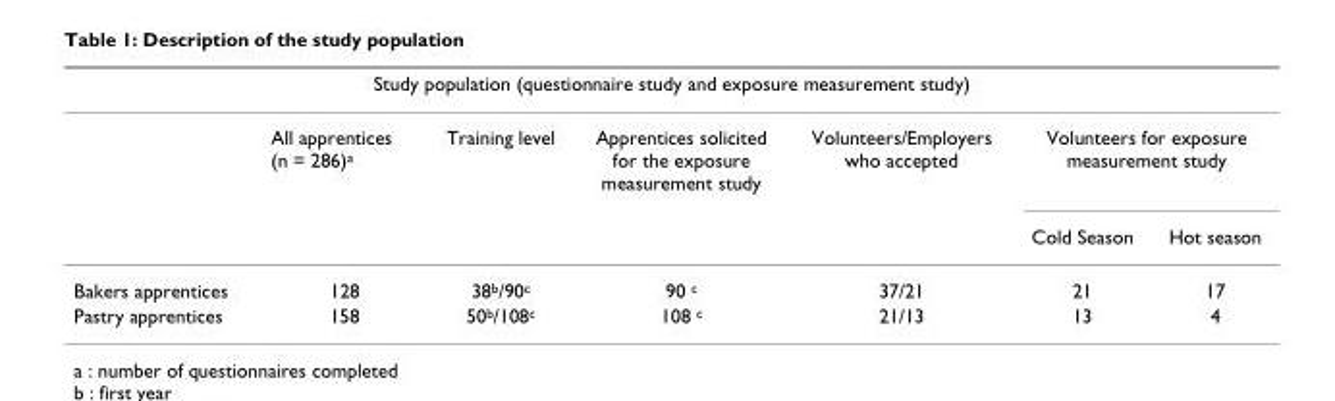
<table><thead><tr><td colspan="7">Study population (questionnaire study and exposure measurement study)</td></tr><tr><td rowspan="2"></td><td rowspan="2">All apprentices (n = 286)<sup>a</sup></td><td rowspan="2">Training level</td><td rowspan="2">Apprentices solicited for the exposure measurement study</td><td rowspan="2">Volunteers/Employers who accepted</td><td colspan="2">Volunteers for exposure measurement study</td></tr><tr><td>Cold Season</td><td>Hot season</td></tr></thead><tbody><tr><td>Bakers apprentices</td><td>128</td><td>38<sup>b</sup>/90<sup>c</sup></td><td>90 <sup>c</sup></td><td>37/21</td><td>21</td><td>17</td></tr><tr><td>Pastry apprentices</td><td>158</td><td>50<sup>b</sup>/108<sup>c</sup></td><td>108 <sup>c</sup></td><td>21/13</td><td>13</td><td>4</td></tr></tbody></table>